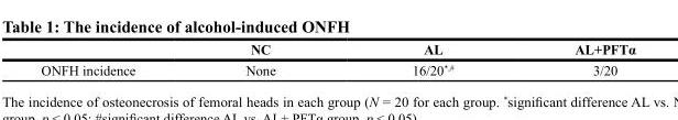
<table><thead><tr><td></td><td>NC</td><td>AL</td><td>AL+PFTα</td></tr></thead><tbody><tr><td>ONFH incidence</td><td>None</td><td>16/20<sup>*,#</sup></td><td>3/20</td></tr></tbody></table>